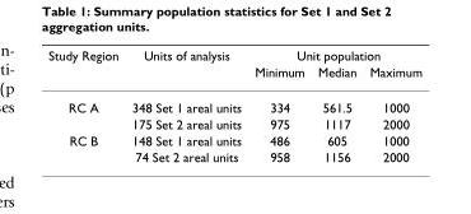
<table><thead><tr><td rowspan="2">Study Region</td><td rowspan="2">Units of analysis</td><td colspan="3">Unit population</td></tr><tr><td>Minimum</td><td>Median</td><td>Maximum</td></tr></thead><tbody><tr><td rowspan="2">RC A</td><td>348 Set 1 areal units</td><td>334</td><td>561.5</td><td>1000</td></tr><tr><td>175 Set 2 areal units</td><td>975</td><td>1117</td><td>2000</td></tr><tr><td rowspan="2">RC B</td><td>148 Set 1 areal units</td><td>486</td><td>605</td><td>1000</td></tr><tr><td>74 Set 2 areal units</td><td>958</td><td>1156</td><td>2000</td></tr></tbody></table>